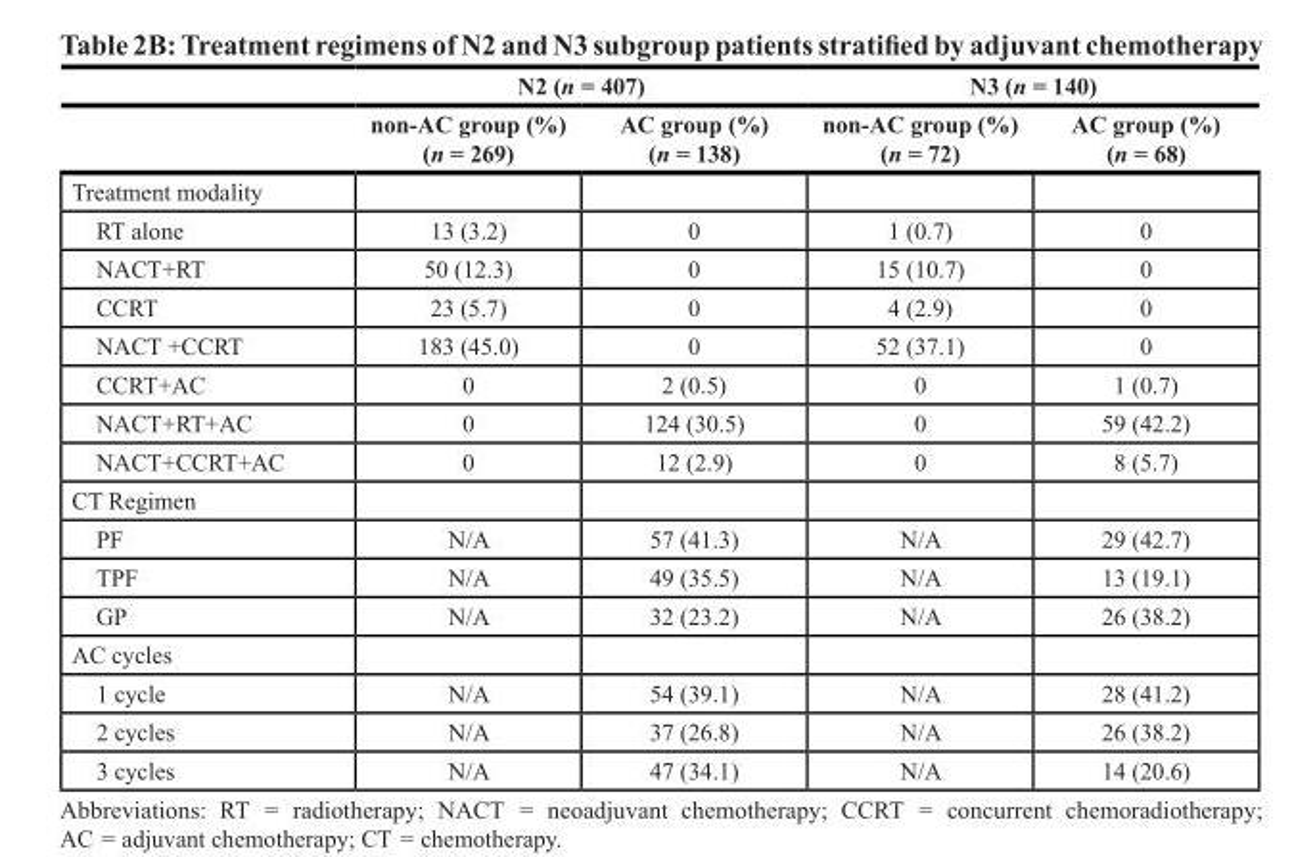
<table><thead><tr><td rowspan="2"></td><td colspan="2">N2 (n = 407)</td><td colspan="2">N3 (n = 140)</td></tr><tr><td>non-AC group (%) (n = 269)</td><td>AC group (%) (n = 138)</td><td>non-AC group (%) (n = 72)</td><td>AC group (%) (n = 68)</td></tr></thead><tbody><tr><td colspan="5">Treatment modality</td></tr><tr><td>RT alone</td><td>13 (3.2)</td><td>0</td><td>1 (0.7)</td><td>0</td></tr><tr><td>NACT+RT</td><td>50 (12.3)</td><td>0</td><td>15 (10.7)</td><td>0</td></tr><tr><td>CCRT</td><td>23 (5.7)</td><td>0</td><td>4 (2.9)</td><td>0</td></tr><tr><td>NACT +CCRT</td><td>183 (45.0)</td><td>0</td><td>52 (37.1)</td><td>0</td></tr><tr><td>CCRT+AC</td><td>0</td><td>2 (0.5)</td><td>0</td><td>1 (0.7)</td></tr><tr><td>NACT+RT+AC</td><td>0</td><td>124 (30.5)</td><td>0</td><td>59 (42.2)</td></tr><tr><td>NACT+CCRT+AC</td><td>0</td><td>12 (2.9)</td><td>0</td><td>8 (5.7)</td></tr><tr><td colspan="5">CT Regimen</td></tr><tr><td>PF</td><td>N/A</td><td>57 (41.3)</td><td>N/A</td><td>29 (42.7)</td></tr><tr><td>TPF</td><td>N/A</td><td>49 (35.5)</td><td>N/A</td><td>13 (19.1)</td></tr><tr><td>GP</td><td>N/A</td><td>32 (23.2)</td><td>N/A</td><td>26 (38.2)</td></tr><tr><td colspan="5">AC cycles</td></tr><tr><td>1 cycle</td><td>N/A</td><td>54 (39.1)</td><td>N/A</td><td>28 (41.2)</td></tr><tr><td>2 cycles</td><td>N/A</td><td>37 (26.8)</td><td>N/A</td><td>26 (38.2)</td></tr><tr><td>3 cycles</td><td>N/A</td><td>47 (34.1)</td><td>N/A</td><td>14 (20.6)</td></tr></tbody></table>